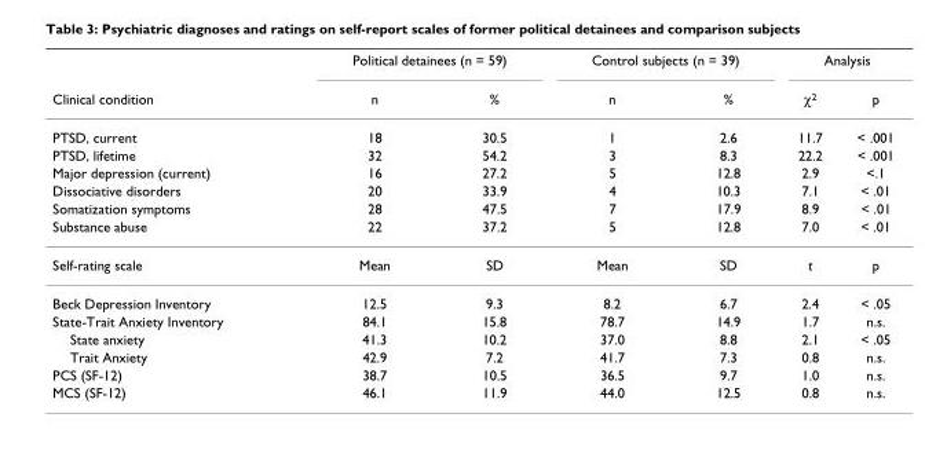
<table><thead><tr><td rowspan="2">Clinical condition</td><td colspan="2">Political detainees (n = 59)</td><td colspan="2">Control subjects (n = 39)</td><td colspan="2">Analysis</td></tr><tr><td>n</td><td>%</td><td>n</td><td>%</td><td>χ<sup>2</sup></td><td>p</td></tr></thead><tbody><tr><td>PTSD, current</td><td>18</td><td>30.5</td><td>1</td><td>2.6</td><td>11.7</td><td>&lt; .001</td></tr><tr><td>PTSD, lifetime</td><td>32</td><td>54.2</td><td>3</td><td>8.3</td><td>22.2</td><td>&lt; .001</td></tr><tr><td>Major depression (current)</td><td>16</td><td>27.2</td><td>5</td><td>12.8</td><td>2.9</td><td>&lt;.1</td></tr><tr><td>Dissociative disorders</td><td>20</td><td>33.9</td><td>4</td><td>10.3</td><td>7.1</td><td>&lt; .01</td></tr><tr><td>Somatization symptoms</td><td>28</td><td>47.5</td><td>7</td><td>17.9</td><td>8.9</td><td>&lt; .01</td></tr><tr><td>Substance abuse</td><td>22</td><td>37.2</td><td>5</td><td>12.8</td><td>7.0</td><td>&lt; .01</td></tr><tr><td>Self-rating scale</td><td>Mean</td><td>SD</td><td>Mean</td><td>SD</td><td>t</td><td>p</td></tr><tr><td>Beck Depression Inventory</td><td>12.5</td><td>9.3</td><td>8.2</td><td>6.7</td><td>2.4</td><td>&lt; .05</td></tr><tr><td>State-Trait Anxiety Inventory</td><td>84.1</td><td>15.8</td><td>78.7</td><td>14.9</td><td>1.7</td><td>n.s.</td></tr><tr><td>State anxiety</td><td>41.3</td><td>10.2</td><td>37.0</td><td>8.8</td><td>2.1</td><td>&lt; .05</td></tr><tr><td>Trait Anxiety</td><td>42.9</td><td>7.2</td><td>41.7</td><td>7.3</td><td>0.8</td><td>n.s.</td></tr><tr><td>PCS (SF-12)</td><td>38.7</td><td>10.5</td><td>36.5</td><td>9.7</td><td>1.0</td><td>n.s.</td></tr><tr><td>MCS (SF-12)</td><td>46.1</td><td>11.9</td><td>44.0</td><td>12.5</td><td>0.8</td><td>n.s.</td></tr></tbody></table>